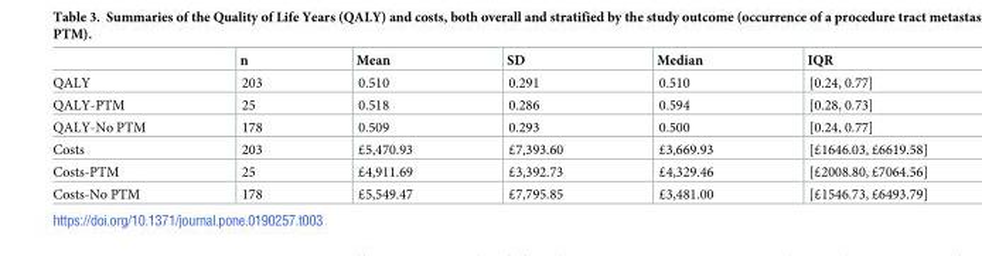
<table><thead><tr><td></td><td>n</td><td>Mean</td><td>SD</td><td>Median</td><td>IQR</td></tr></thead><tbody><tr><td>QALY</td><td>203</td><td>0.510</td><td>0.291</td><td>0.510</td><td>[0.24, 0.77]</td></tr><tr><td>QALY-PTM</td><td>25</td><td>0.518</td><td>0.286</td><td>0.594</td><td>[0.28, 0.73]</td></tr><tr><td>QALY-No PTM</td><td>178</td><td>0.509</td><td>0.293</td><td>0.500</td><td>[0.24, 0.77]</td></tr><tr><td>Costs</td><td>203</td><td>£5,470.93</td><td>£7,393.60</td><td>£3,669.93</td><td>[£1646.03, £6619.58]</td></tr><tr><td>Costs-PTM</td><td>25</td><td>£4,911.69</td><td>£3,392.73</td><td>£4,329.46</td><td>[£2008.80, £7064.56]</td></tr><tr><td>Costs-No PTM</td><td>178</td><td>£5,549.47</td><td>£7,795.85</td><td>£3,481.00</td><td>[£1546.73, £6493.79]</td></tr></tbody></table>